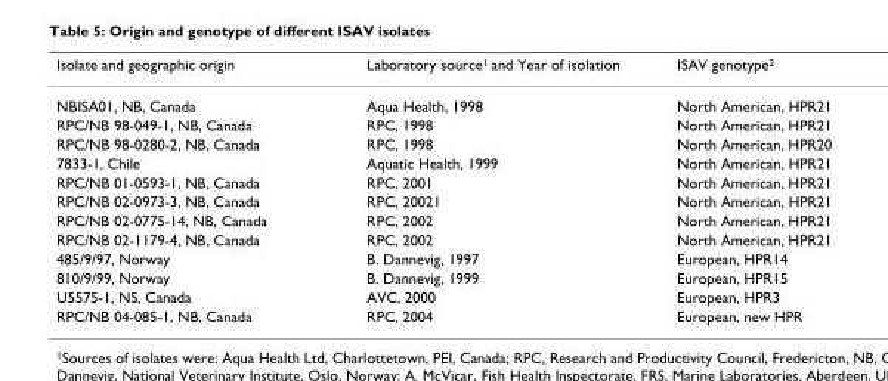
<table><thead><tr><td>Isolate and geographic origin</td><td>Laboratory source<sup>1</sup> and Year of isolation</td><td>ISAV genotype<sup>2</sup></td></tr></thead><tbody><tr><td>NBISA01, NB, Canada</td><td>Aqua Health, 1998</td><td>North American, HPR21</td></tr><tr><td>RPC/NB 98-049-1, NB, Canada</td><td>RPC, 1998</td><td>North American, HPR21</td></tr><tr><td>RPC/NB 98-0280-2, NB, Canada</td><td>RPC, 1998</td><td>North American, HPR20</td></tr><tr><td>7833-1, Chile</td><td>Aquatic Health, 1999</td><td>North American, HPR21</td></tr><tr><td>RPC/NB 01-0593-1, NB, Canada</td><td>RPC, 2001</td><td>North American, HPR21</td></tr><tr><td>RPC/NB 02-0973-3, NB, Canada</td><td>RPC, 20021</td><td>North American, HPR21</td></tr><tr><td>RPC/NB 02-0775-14, NB, Canada</td><td>RPC, 2002</td><td>North American, HPR21</td></tr><tr><td>RPC/NB 02-1179-4, NB, Canada</td><td>RPC, 2002</td><td>North American, HPR21</td></tr><tr><td>485/9/97, Norway</td><td>B. Dannevig, 1997</td><td>European, HPR14</td></tr><tr><td>810/9/99, Norway</td><td>B. Dannevig, 1999</td><td>European, HPR15</td></tr><tr><td>U5575-1, NS, Canada</td><td>AVC, 2000</td><td>European, HPR3</td></tr><tr><td>RPC/NB 04-085-1, NB, Canada</td><td>RPC, 2004</td><td>European, new HPR</td></tr></tbody></table>